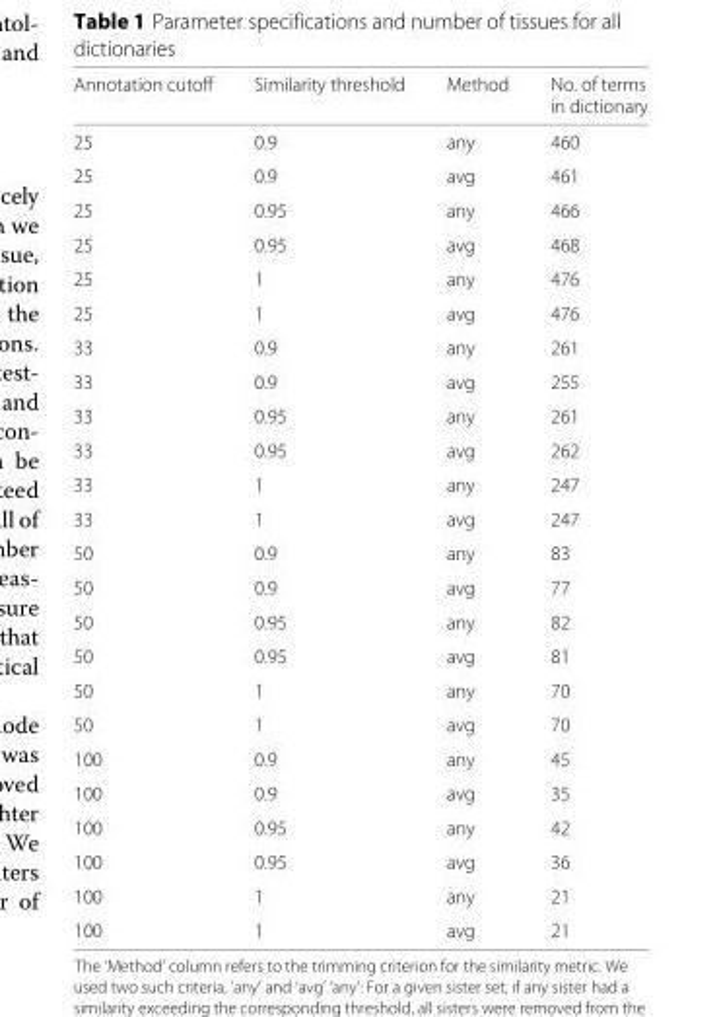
<table><thead><tr><td>Annotation cutoff</td><td>Similarity threshold</td><td>Method</td><td>No. of terms in dictionary</td></tr></thead><tbody><tr><td>25</td><td>0.9</td><td>any</td><td>460</td></tr><tr><td>25</td><td>0.9</td><td>avg</td><td>461</td></tr><tr><td>25</td><td>0.95</td><td>any</td><td>466</td></tr><tr><td>25</td><td>0.95</td><td>avg</td><td>468</td></tr><tr><td>25</td><td>1</td><td>any</td><td>476</td></tr><tr><td>25</td><td>1</td><td>avg</td><td>476</td></tr><tr><td>33</td><td>0.9</td><td>any</td><td>261</td></tr><tr><td>33</td><td>0.9</td><td>avg</td><td>255</td></tr><tr><td>33</td><td>0.95</td><td>any</td><td>261</td></tr><tr><td>33</td><td>0.95</td><td>avg</td><td>262</td></tr><tr><td>33</td><td>1</td><td>any</td><td>247</td></tr><tr><td>33</td><td>1</td><td>avg</td><td>247</td></tr><tr><td>50</td><td>0.9</td><td>any</td><td>83</td></tr><tr><td>50</td><td>0.9</td><td>avg</td><td>77</td></tr><tr><td>50</td><td>0.95</td><td>any</td><td>82</td></tr><tr><td>50</td><td>0.95</td><td>avg</td><td>81</td></tr><tr><td>50</td><td>1</td><td>any</td><td>70</td></tr><tr><td>50</td><td>1</td><td>avg</td><td>70</td></tr><tr><td>100</td><td>0.9</td><td>any</td><td>45</td></tr><tr><td>100</td><td>0.9</td><td>avg</td><td>35</td></tr><tr><td>100</td><td>0.95</td><td>any</td><td>42</td></tr><tr><td>100</td><td>0.95</td><td>avg</td><td>36</td></tr><tr><td>100</td><td>1</td><td>any</td><td>21</td></tr><tr><td>100</td><td>1</td><td>avg</td><td>21</td></tr></tbody></table>